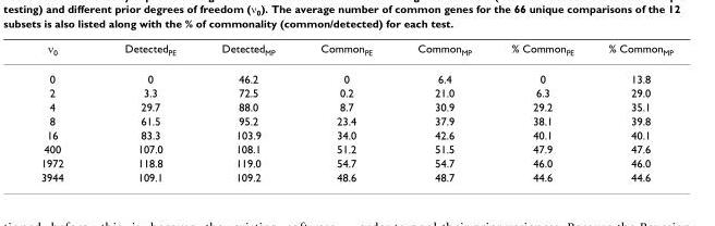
<table><thead><tr><td>ν<sub>0</sub></td><td>Detected<sub>PE</sub></td><td>Detected<sub>MP</sub></td><td>Common<sub>PE</sub></td><td>Common<sub>MP</sub></td><td>% Common<sub>PE</sub></td><td>% Common<sub>MP</sub></td></tr></thead><tbody><tr><td>0</td><td>0</td><td>46.2</td><td>0</td><td>6.4</td><td>0</td><td>13.8</td></tr><tr><td>2</td><td>3.3</td><td>72.5</td><td>0.2</td><td>21.0</td><td>6.3</td><td>29.0</td></tr><tr><td>4</td><td>29.7</td><td>88.0</td><td>8.7</td><td>30.9</td><td>29.2</td><td>35.1</td></tr><tr><td>8</td><td>61.5</td><td>95.2</td><td>23.4</td><td>37.9</td><td>38.1</td><td>39.8</td></tr><tr><td>16</td><td>83.3</td><td>103.9</td><td>34.0</td><td>42.6</td><td>40.1</td><td>40.1</td></tr><tr><td>400</td><td>107.0</td><td>108.1</td><td>51.2</td><td>51.5</td><td>47.9</td><td>47.6</td></tr><tr><td>1972</td><td>118.8</td><td>119.0</td><td>54.7</td><td>54.7</td><td>46.0</td><td>46.0</td></tr><tr><td>3944</td><td>109.1</td><td>109.2</td><td>48.6</td><td>48.7</td><td>44.6</td><td>44.6</td></tr></tbody></table>